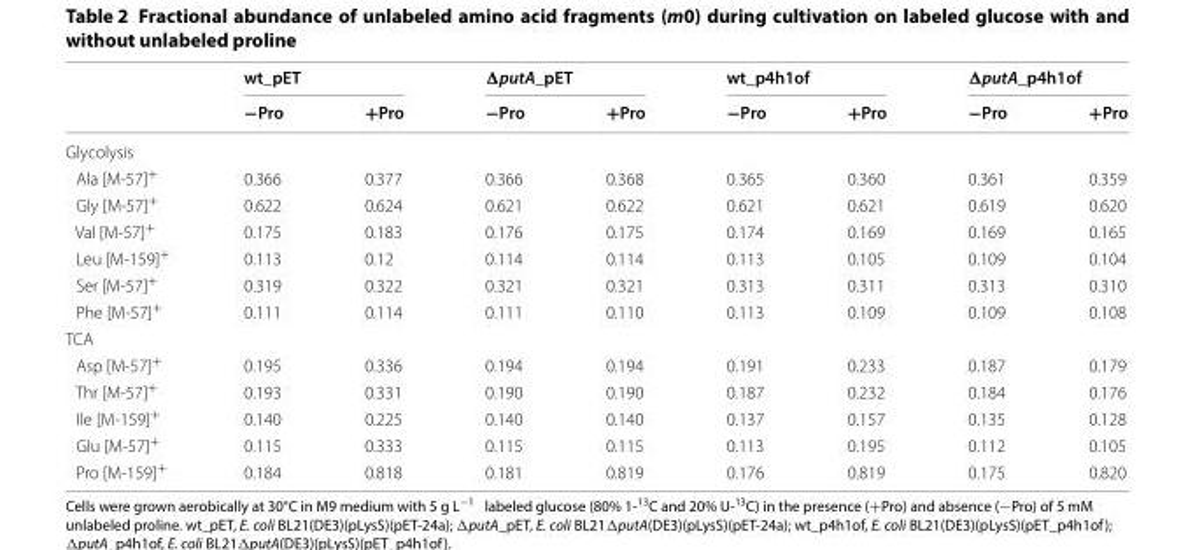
<table><thead><tr><td rowspan="2"></td><td colspan="2">wt_pET</td><td colspan="2">ΔputA_pET</td><td colspan="2">wt_p4h1of</td><td colspan="2">ΔputA_p4h1of</td></tr><tr><td>−Pro</td><td>+Pro</td><td>−Pro</td><td>+Pro</td><td>−Pro</td><td>+Pro</td><td>−Pro</td><td>+Pro</td></tr></thead><tbody><tr><td colspan="9">Glycolysis</td></tr><tr><td>Ala [M-57]<sup>+</sup></td><td>0.366</td><td>0.377</td><td>0.366</td><td>0.368</td><td>0.365</td><td>0.360</td><td>0.361</td><td>0.359</td></tr><tr><td>Gly [M-57]<sup>+</sup></td><td>0.622</td><td>0.624</td><td>0.621</td><td>0.622</td><td>0.621</td><td>0.621</td><td>0.619</td><td>0.620</td></tr><tr><td>Val [M-57]<sup>+</sup></td><td>0.175</td><td>0.183</td><td>0.176</td><td>0.175</td><td>0.174</td><td>0.169</td><td>0.169</td><td>0.165</td></tr><tr><td>Leu [M-159]<sup>+</sup></td><td>0.113</td><td>0.12</td><td>0.114</td><td>0.114</td><td>0.113</td><td>0.105</td><td>0.109</td><td>0.104</td></tr><tr><td>Ser [M-57]<sup>+</sup></td><td>0.319</td><td>0.322</td><td>0.321</td><td>0.321</td><td>0.313</td><td>0.311</td><td>0.313</td><td>0.310</td></tr><tr><td>Phe [M-57]<sup>+</sup></td><td>0.111</td><td>0.114</td><td>0.111</td><td>0.110</td><td>0.113</td><td>0.109</td><td>0.109</td><td>0.108</td></tr><tr><td colspan="9">TCA</td></tr><tr><td>Asp [M-57]<sup>+</sup></td><td>0.195</td><td>0.336</td><td>0.194</td><td>0.194</td><td>0.191</td><td>0.233</td><td>0.187</td><td>0.179</td></tr><tr><td>Thr [M-57]<sup>+</sup></td><td>0.193</td><td>0.331</td><td>0.190</td><td>0.190</td><td>0.187</td><td>0.232</td><td>0.184</td><td>0.176</td></tr><tr><td>Ile [M-159]<sup>+</sup></td><td>0.140</td><td>0.225</td><td>0.140</td><td>0.140</td><td>0.137</td><td>0.157</td><td>0.135</td><td>0.128</td></tr><tr><td>Glu [M-57]<sup>+</sup></td><td>0.115</td><td>0.333</td><td>0.115</td><td>0.115</td><td>0.113</td><td>0.195</td><td>0.112</td><td>0.105</td></tr><tr><td>Pro [M-159]<sup>+</sup></td><td>0.184</td><td>0.818</td><td>0.181</td><td>0.819</td><td>0.176</td><td>0.819</td><td>0.175</td><td>0.820</td></tr></tbody></table>